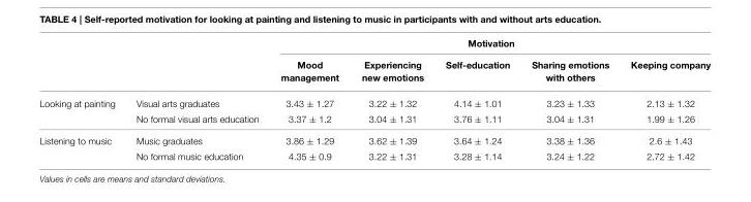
<table><thead><tr><td rowspan="2"></td><td rowspan="2"></td><td colspan="5">Motivation</td></tr><tr><td>Mood management</td><td>Experiencing new emotions</td><td>Self-education</td><td>Sharing emotions with others</td><td>Keeping company</td></tr></thead><tbody><tr><td rowspan="2">Looking at painting</td><td>Visual arts graduates</td><td>3.43 ± 1.27</td><td>3.22 ± 1.32</td><td>4.14 ± 1.01</td><td>3.23 ± 1.33</td><td>2.13 ± 1.32</td></tr><tr><td>No formal visual arts education</td><td>3.37 ± 1.2</td><td>3.04 ± 1.31</td><td>3.76 ± 1.11</td><td>3.04 ± 1.31</td><td>1.99 ± 1.26</td></tr><tr><td rowspan="2">Listening to music</td><td>Music graduates</td><td>3.86 ± 1.29</td><td>3.62 ± 1.39</td><td>3.64 ± 1.24</td><td>3.38 ± 1.36</td><td>2.6 ± 1.43</td></tr><tr><td>No formal music education</td><td>4.35 ± 0.9</td><td>3.22 ± 1.31</td><td>3.28 ± 1.14</td><td>3.24 ± 1.22</td><td>2.72 ± 1.42</td></tr></tbody></table>